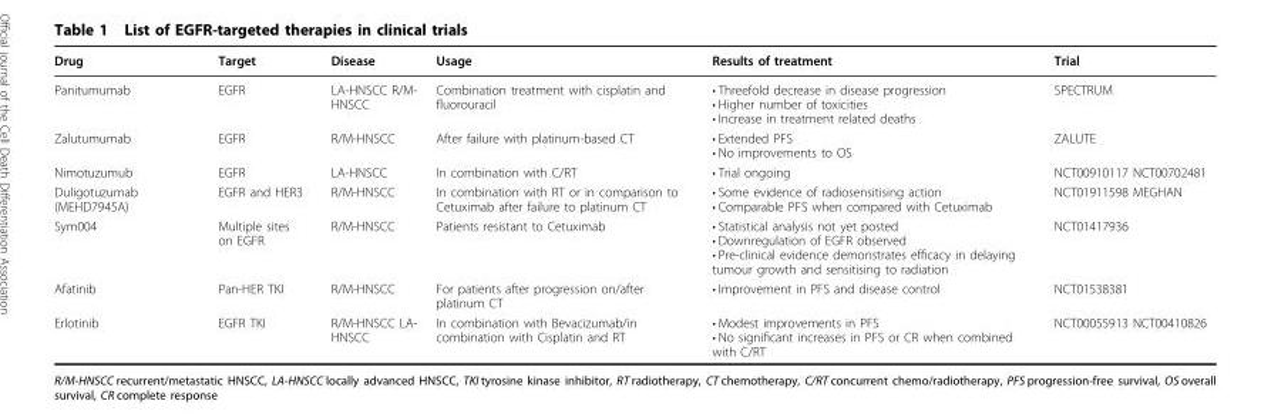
<table><thead><tr><td>Drug</td><td>Target</td><td>Disease</td><td>Usage</td><td>Results of treatment</td><td>Trial</td></tr></thead><tbody><tr><td>Panitumumab</td><td>EGFR</td><td>LA-HNSCC R/M- HNSCC</td><td>Combination treatment with cisplatin and fluorouracil</td><td>• Threefold decrease in disease progression • Higher number of toxicities • Increase in treatment related deaths</td><td>SPECTRUM</td></tr><tr><td>Zalutumumab</td><td>EGFR</td><td>R/M-HNSCC</td><td>After failure with platinum-based CT</td><td>• Extended PFS • No improvements to OS</td><td>ZALUTE</td></tr><tr><td>Nimotuzumub</td><td>EGFR</td><td>LA-HNSCC</td><td>In combination with C/RT</td><td>• Trial ongoing</td><td>NCT00910117 NCT00702481</td></tr><tr><td>Duligotuzumab (MEHD7945A)</td><td>EGFR and HER3</td><td>R/M-HNSCC</td><td>In combination with RT or in comparison to Cetuximab after failure to platinum CT</td><td>• Some evidence of radiosensitising action • Comparable PFS when compared with Cetuximab</td><td>NCT01911598 MEGHAN</td></tr><tr><td>Sym004</td><td>Multiple sites on EGFR</td><td>R/M-HNSCC</td><td>Patients resistant to Cetuximab</td><td>• Statistical analysis not yet posted • Downregulation of EGFR observed • Pre-clinical evidence demonstrates efficacy in delaying tumour growth and sensitising to radiation</td><td>NCT01417936</td></tr><tr><td>Afatinib</td><td>Pan-HER TKI</td><td>R/M-HNSCC</td><td>For patients after progression on/after platinum CT</td><td>• Improvement in PFS and disease control</td><td>NCT01538381</td></tr><tr><td>Erlotinib</td><td>EGFR TKI</td><td>R/M-HNSCC LA- HNSCC</td><td>In combination with Bevacizumab/in combination with Cisplatin and RT</td><td>• Modest improvements in PFS • No significant increases in PFS or CR when combined with C/RT</td><td>NCT00055913 NCT00410826</td></tr></tbody></table>